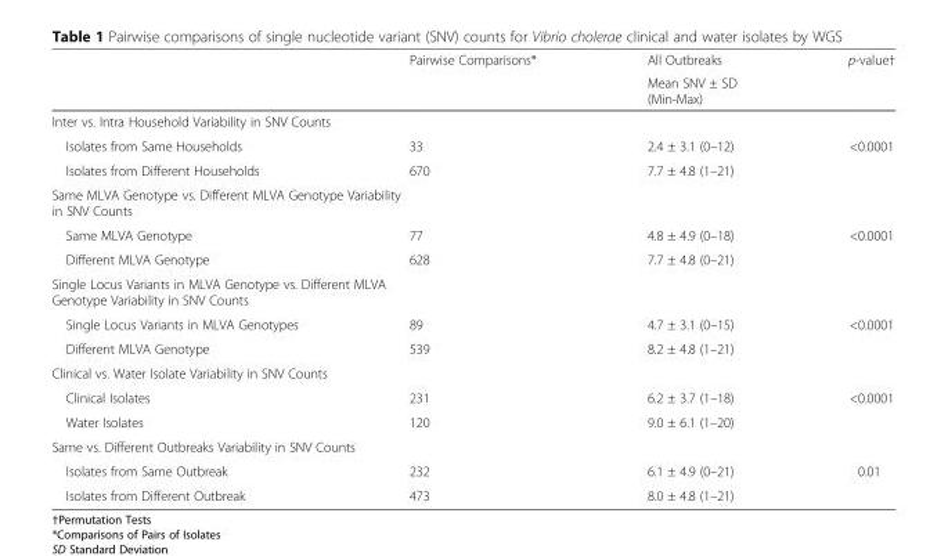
<table><thead><tr><td rowspan="2"></td><td rowspan="2">Pairwise Comparisons*</td><td rowspan="2">All Outbreaks Mean SNV ± SD (Min-Max)</td><td rowspan="2">p-value†</td></tr><tr></tr></thead><tbody><tr><td colspan="4">Inter vs. Intra Household Variability in SNV Counts</td></tr><tr><td>Isolates from Same Households</td><td>33</td><td>2.4 ± 3.1 (0–12)</td><td>&lt;0.0001</td></tr><tr><td>Isolates from Different Households</td><td>670</td><td>7.7 ± 4.8 (1–21)</td><td></td></tr><tr><td colspan="4">Same MLVA Genotype vs. Different MLVA Genotype Variability in SNV Counts</td></tr><tr><td>Same MLVA Genotype</td><td>77</td><td>4.8 ± 4.9 (0–18)</td><td>&lt;0.0001</td></tr><tr><td>Different MLVA Genotype</td><td>628</td><td>7.7 ± 4.8 (0–21)</td><td></td></tr><tr><td colspan="4">Single Locus Variants in MLVA Genotype vs. Different MLVA Genotype Variability in SNV Counts</td></tr><tr><td>Single Locus Variants in MLVA Genotypes</td><td>89</td><td>4.7 ± 3.1 (0–15)</td><td>&lt;0.0001</td></tr><tr><td>Different MLVA Genotype</td><td>539</td><td>8.2 ± 4.8 (1–21)</td><td></td></tr><tr><td colspan="4">Clinical vs. Water Isolate Variability in SNV Counts</td></tr><tr><td>Clinical Isolates</td><td>231</td><td>6.2 ± 3.7 (1–18)</td><td>&lt;0.0001</td></tr><tr><td>Water Isolates</td><td>120</td><td>9.0 ± 6.1 (1–20)</td><td></td></tr><tr><td colspan="4">Same vs. Different Outbreaks Variability in SNV Counts</td></tr><tr><td>Isolates from Same Outbreak</td><td>232</td><td>6.1 ± 4.9 (0–21)</td><td>0.01</td></tr><tr><td>Isolates from Different Outbreak</td><td>473</td><td>8.0 ± 4.8 (1–21)</td><td></td></tr></tbody></table>